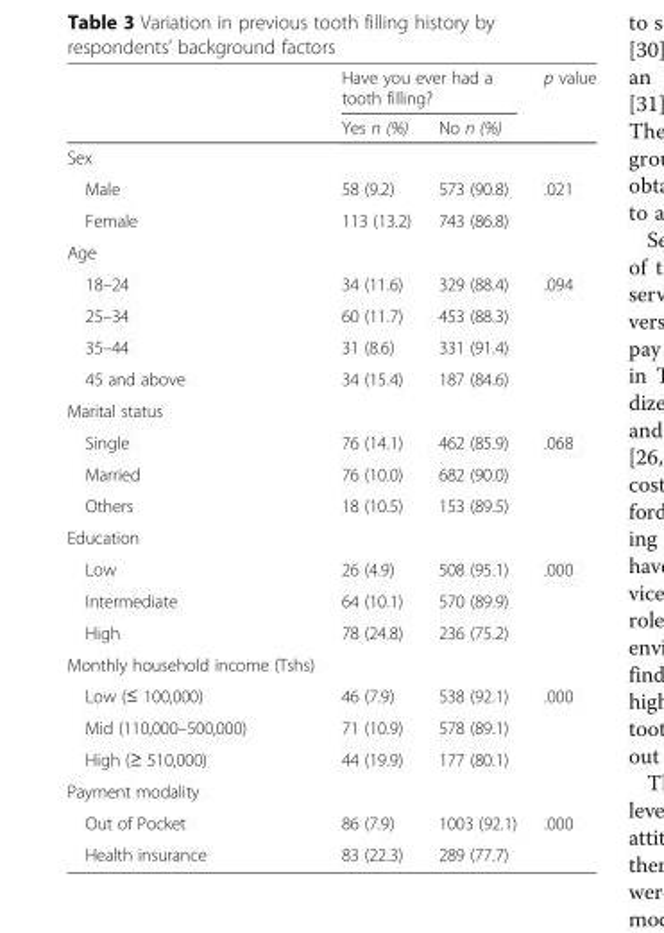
<table><thead><tr><td rowspan="2"></td><td colspan="2">Have you ever had a tooth filling?</td><td rowspan="2">p value</td></tr><tr><td>Yes n (%)</td><td>No n (%)</td></tr></thead><tbody><tr><td colspan="4">Sex</td></tr><tr><td>Male</td><td>58 (9.2)</td><td>573 (90.8)</td><td rowspan="2">.021</td></tr><tr><td>Female</td><td>113 (13.2)</td><td>743 (86.8)</td></tr><tr><td colspan="4">Age</td></tr><tr><td>18–24</td><td>34 (11.6)</td><td>329 (88.4)</td><td rowspan="4">.094</td></tr><tr><td>25–34</td><td>60 (11.7)</td><td>453 (88.3)</td></tr><tr><td>35–44</td><td>31 (8.6)</td><td>331 (91.4)</td></tr><tr><td>45 and above</td><td>34 (15.4)</td><td>187 (84.6)</td></tr><tr><td colspan="4">Marital status</td></tr><tr><td>Single</td><td>76 (14.1)</td><td>462 (85.9)</td><td rowspan="3">.068</td></tr><tr><td>Married</td><td>76 (10.0)</td><td>682 (90.0)</td></tr><tr><td>Others</td><td>18 (10.5)</td><td>153 (89.5)</td></tr><tr><td colspan="4">Education</td></tr><tr><td>Low</td><td>26 (4.9)</td><td>508 (95.1)</td><td rowspan="3">.000</td></tr><tr><td>Intermediate</td><td>64 (10.1)</td><td>570 (89.9)</td></tr><tr><td>High</td><td>78 (24.8)</td><td>236 (75.2)</td></tr><tr><td colspan="4">Monthly household income (Tshs)</td></tr><tr><td>Low (≤ 100,000)</td><td>46 (7.9)</td><td>538 (92.1)</td><td rowspan="3">.000</td></tr><tr><td>Mid (110,000–500,000)</td><td>71 (10.9)</td><td>578 (89.1)</td></tr><tr><td>High (≥ 510,000)</td><td>44 (19.9)</td><td>177 (80.1)</td></tr><tr><td colspan="4">Payment modality</td></tr><tr><td>Out of Pocket</td><td>86 (7.9)</td><td>1003 (92.1)</td><td rowspan="2">.000</td></tr><tr><td>Health insurance</td><td>83 (22.3)</td><td>289 (77.7)</td></tr></tbody></table>